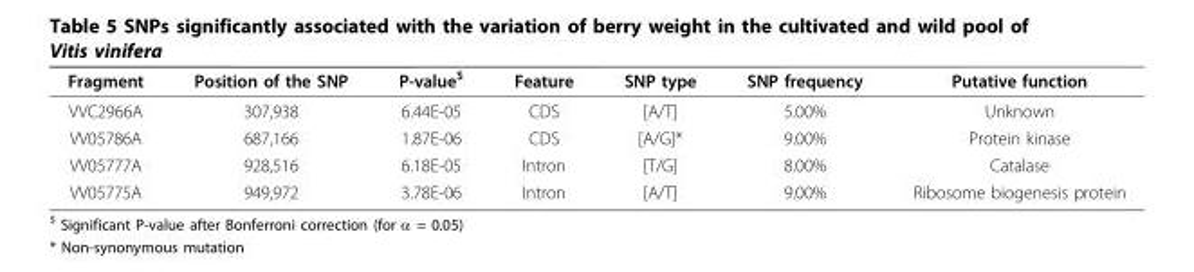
<table><thead><tr><td>Fragment</td><td>Position of the SNP</td><td>P-value<sup>$</sup></td><td>Feature</td><td>SNP type</td><td>SNP frequency</td><td>Putative function</td></tr></thead><tbody><tr><td>VVC2966A</td><td>307,938</td><td>6.44E-05</td><td>CDS</td><td>[A/T]</td><td>5.00%</td><td>Unknown</td></tr><tr><td>VV05786A</td><td>687,166</td><td>1.87E-06</td><td>CDS</td><td>[A/G]*</td><td>9.00%</td><td>Protein kinase</td></tr><tr><td>VV05777A</td><td>928,516</td><td>6.18E-05</td><td>Intron</td><td>[T/G]</td><td>8.00%</td><td>Catalase</td></tr><tr><td>VV05775A</td><td>949,972</td><td>3.78E-06</td><td>Intron</td><td>[A/T]</td><td>9.00%</td><td>Ribosome biogenesis protein</td></tr></tbody></table>